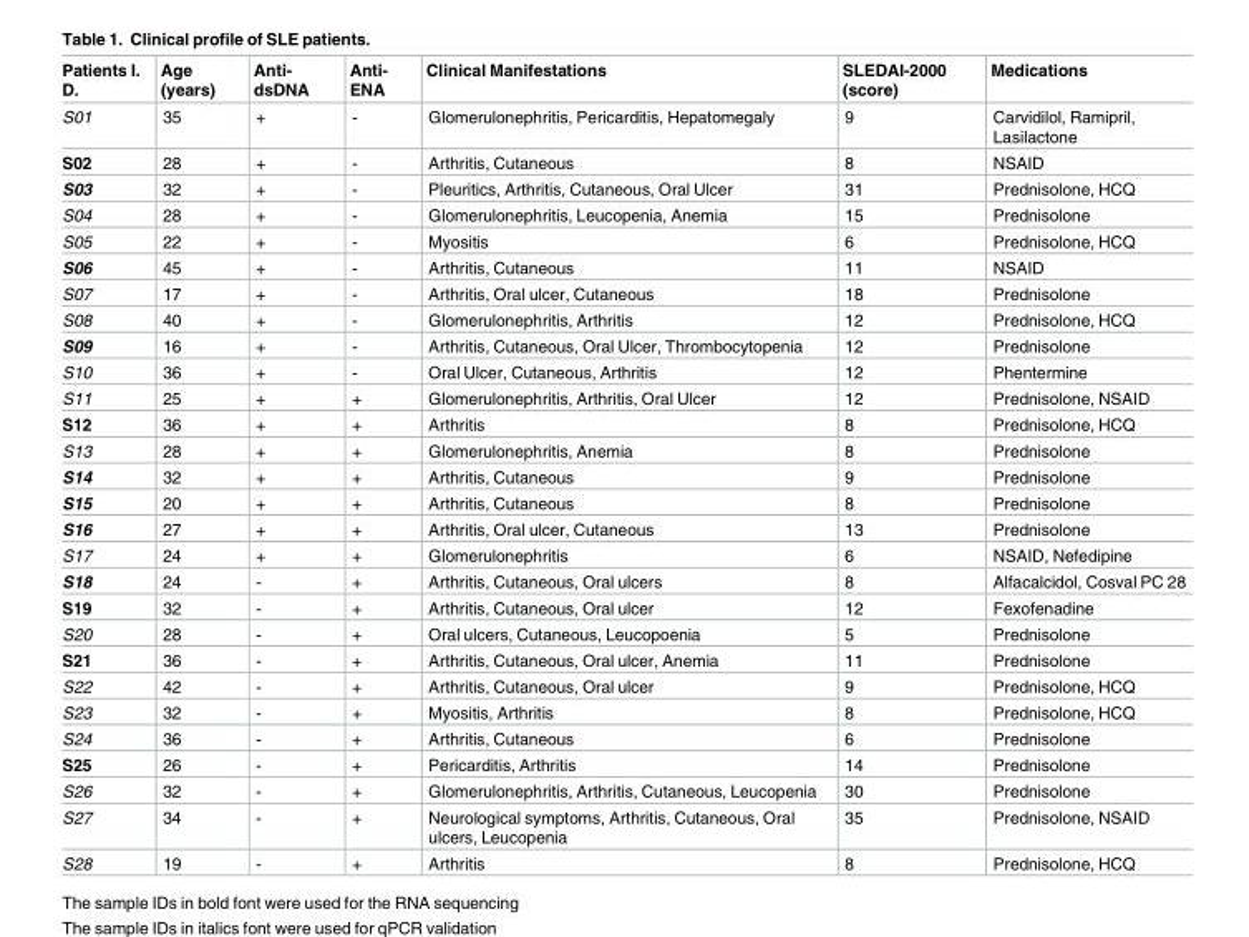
<table><thead><tr><td>Patients I. D.</td><td>Age (years)</td><td>Anti- dsDNA</td><td>Anti- ENA</td><td>Clinical Manifestations</td><td>SLEDAI-2000 (score)</td><td>Medications</td></tr></thead><tbody><tr><td>S01</td><td>35</td><td>+</td><td>-</td><td>Glomerulonephritis, Pericarditis, Hepatomegaly</td><td>9</td><td>Carvidilol, Ramipril, Lasilactone</td></tr><tr><td>S02</td><td>28</td><td>+</td><td>-</td><td>Arthritis, Cutaneous</td><td>8</td><td>NSAID</td></tr><tr><td>S03</td><td>32</td><td>+</td><td>-</td><td>Pleuritics, Arthritis, Cutaneous, Oral Ulcer</td><td>31</td><td>Prednisolone, HCQ</td></tr><tr><td>S04</td><td>28</td><td>+</td><td>-</td><td>Glomerulonephritis, Leucopenia, Anemia</td><td>15</td><td>Prednisolone</td></tr><tr><td>S05</td><td>22</td><td>+</td><td>-</td><td>Myositis</td><td>6</td><td>Prednisolone, HCQ</td></tr><tr><td>S06</td><td>45</td><td>+</td><td>-</td><td>Arthritis, Cutaneous</td><td>11</td><td>NSAID</td></tr><tr><td>S07</td><td>17</td><td>+</td><td>-</td><td>Arthritis, Oral ulcer, Cutaneous</td><td>18</td><td>Prednisolone</td></tr><tr><td>S08</td><td>40</td><td>+</td><td>-</td><td>Glomerulonephritis, Arthritis</td><td>12</td><td>Prednisolone, HCQ</td></tr><tr><td>S09</td><td>16</td><td>+</td><td>-</td><td>Arthritis, Cutaneous, Oral Ulcer, Thrombocytopenia</td><td>12</td><td>Prednisolone</td></tr><tr><td>S10</td><td>36</td><td>+</td><td>-</td><td>Oral Ulcer, Cutaneous, Arthritis</td><td>12</td><td>Phentermine</td></tr><tr><td>S11</td><td>25</td><td>+</td><td>+</td><td>Glomerulonephritis, Arthritis, Oral Ulcer</td><td>12</td><td>Prednisolone, NSAID</td></tr><tr><td>S12</td><td>36</td><td>+</td><td>+</td><td>Arthritis</td><td>8</td><td>Prednisolone, HCQ</td></tr><tr><td>S13</td><td>28</td><td>+</td><td>+</td><td>Glomerulonephritis, Anemia</td><td>8</td><td>Prednisolone</td></tr><tr><td>S14</td><td>32</td><td>+</td><td>+</td><td>Arthritis, Cutaneous</td><td>9</td><td>Prednisolone</td></tr><tr><td>S15</td><td>20</td><td>+</td><td>+</td><td>Arthritis, Cutaneous</td><td>8</td><td>Prednisolone</td></tr><tr><td>S16</td><td>27</td><td>+</td><td>+</td><td>Arthritis, Oral ulcer, Cutaneous</td><td>13</td><td>Prednisolone</td></tr><tr><td>S17</td><td>24</td><td>+</td><td>+</td><td>Glomerulonephritis</td><td>6</td><td>NSAID, Nefedipine</td></tr><tr><td>S18</td><td>24</td><td>-</td><td>+</td><td>Arthritis, Cutaneous, Oral ulcers</td><td>8</td><td>Alfacalcidol, Cosval PC 28</td></tr><tr><td>S19</td><td>32</td><td>-</td><td>+</td><td>Arthritis, Cutaneous, Oral ulcer</td><td>12</td><td>Fexofenadine</td></tr><tr><td>S20</td><td>28</td><td>-</td><td>+</td><td>Oral ulcers, Cutaneous, Leucopoenia</td><td>5</td><td>Prednisolone</td></tr><tr><td>S21</td><td>36</td><td>-</td><td>+</td><td>Arthritis, Cutaneous, Oral ulcer, Anemia</td><td>11</td><td>Prednisolone</td></tr><tr><td>S22</td><td>42</td><td>-</td><td>+</td><td>Arthritis, Cutaneous, Oral ulcer</td><td>9</td><td>Prednisolone, HCQ</td></tr><tr><td>S23</td><td>32</td><td>-</td><td>+</td><td>Myositis, Arthritis</td><td>8</td><td>Prednisolone, HCQ</td></tr><tr><td>S24</td><td>36</td><td>-</td><td>+</td><td>Arthritis, Cutaneous</td><td>6</td><td>Prednisolone</td></tr><tr><td>S25</td><td>26</td><td>-</td><td>+</td><td>Pericarditis, Arthritis</td><td>14</td><td>Prednisolone</td></tr><tr><td>S26</td><td>32</td><td>-</td><td>+</td><td>Glomerulonephritis, Arthritis, Cutaneous, Leucopenia</td><td>30</td><td>Prednisolone</td></tr><tr><td>S27</td><td>34</td><td>-</td><td>+</td><td>Neurological symptoms, Arthritis, Cutaneous, Oral ulcers, Leucopenia</td><td>35</td><td>Prednisolone, NSAID</td></tr><tr><td>S28</td><td>19</td><td>-</td><td>+</td><td>Arthritis</td><td>8</td><td>Prednisolone, HCQ</td></tr></tbody></table>